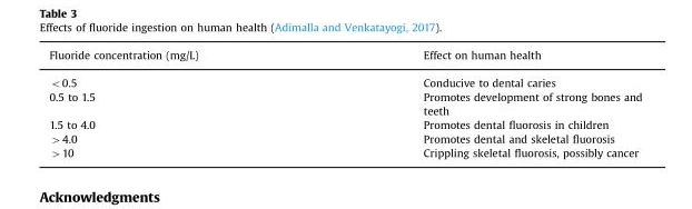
<table><thead><tr><td>Fluoride concentration (mg/L)</td><td>Effect on human health</td></tr></thead><tbody><tr><td>&lt;0.5</td><td>Conducive to dental caries</td></tr><tr><td>0.5 to 1.5</td><td>Promotes development of strong bones and teeth</td></tr><tr><td>1.5 to 4.0</td><td>Promotes dental fluorosis in children</td></tr><tr><td>&gt;4.0</td><td>Promotes dental and skeletal fluorosis</td></tr><tr><td>&gt;10</td><td>Crippling skeletal fluorosis, possibly cancer</td></tr></tbody></table>